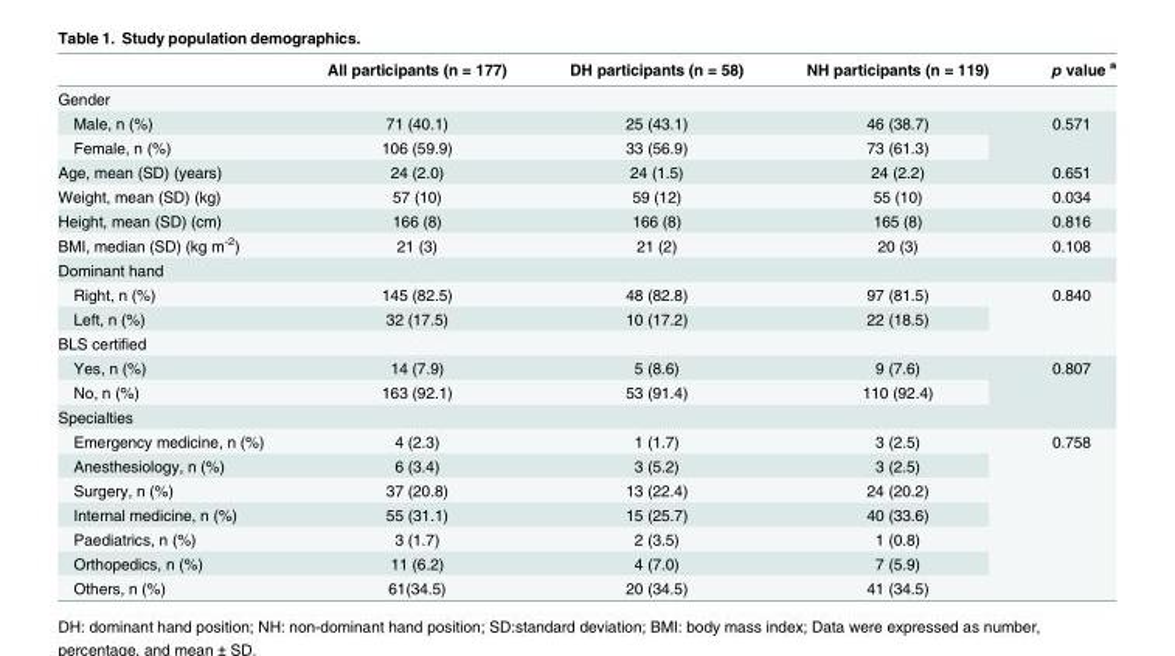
<table><thead><tr><td></td><td>All participants (n = 177)</td><td>DH participants (n = 58)</td><td>NH participants (n = 119)</td><td>p value <sup>a</sup></td></tr></thead><tbody><tr><td colspan="5">Gender</td></tr><tr><td>Male, n (%)</td><td>71 (40.1)</td><td>25 (43.1)</td><td>46 (38.7)</td><td rowspan="2">0.571</td></tr><tr><td>Female, n (%)</td><td>106 (59.9)</td><td>33 (56.9)</td><td>73 (61.3)</td></tr><tr><td>Age, mean (SD) (years)</td><td>24 (2.0)</td><td>24 (1.5)</td><td>24 (2.2)</td><td>0.651</td></tr><tr><td>Weight, mean (SD) (kg)</td><td>57 (10)</td><td>59 (12)</td><td>55 (10)</td><td>0.034</td></tr><tr><td>Height, mean (SD) (cm)</td><td>166 (8)</td><td>166 (8)</td><td>165 (8)</td><td>0.816</td></tr><tr><td>BMI, median (SD) (kg m<sup>-2</sup>)</td><td>21 (3)</td><td>21 (2)</td><td>20 (3)</td><td>0.108</td></tr><tr><td colspan="5">Dominant hand</td></tr><tr><td>Right, n (%)</td><td>145 (82.5)</td><td>48 (82.8)</td><td>97 (81.5)</td><td rowspan="2">0.840</td></tr><tr><td>Left, n (%)</td><td>32 (17.5)</td><td>10 (17.2)</td><td>22 (18.5)</td></tr><tr><td colspan="5">BLS certified</td></tr><tr><td>Yes, n (%)</td><td>14 (7.9)</td><td>5 (8.6)</td><td>9 (7.6)</td><td rowspan="2">0.807</td></tr><tr><td>No, n (%)</td><td>163 (92.1)</td><td>53 (91.4)</td><td>110 (92.4)</td></tr><tr><td colspan="5">Specialties</td></tr><tr><td>Emergency medicine, n (%)</td><td>4 (2.3)</td><td>1 (1.7)</td><td>3 (2.5)</td><td rowspan="7">0.758</td></tr><tr><td>Anesthesiology, n (%)</td><td>6 (3.4)</td><td>3 (5.2)</td><td>3 (2.5)</td></tr><tr><td>Surgery, n (%)</td><td>37 (20.8)</td><td>13 (22.4)</td><td>24 (20.2)</td></tr><tr><td>Internal medicine, n (%)</td><td>55 (31.1)</td><td>15 (25.7)</td><td>40 (33.6)</td></tr><tr><td>Paediatrics, n (%)</td><td>3 (1.7)</td><td>2 (3.5)</td><td>1 (0.8)</td></tr><tr><td>Orthopedics, n (%)</td><td>11 (6.2)</td><td>4 (7.0)</td><td>7 (5.9)</td></tr><tr><td>Others, n (%)</td><td>61(34.5)</td><td>20 (34.5)</td><td>41 (34.5)</td></tr></tbody></table>